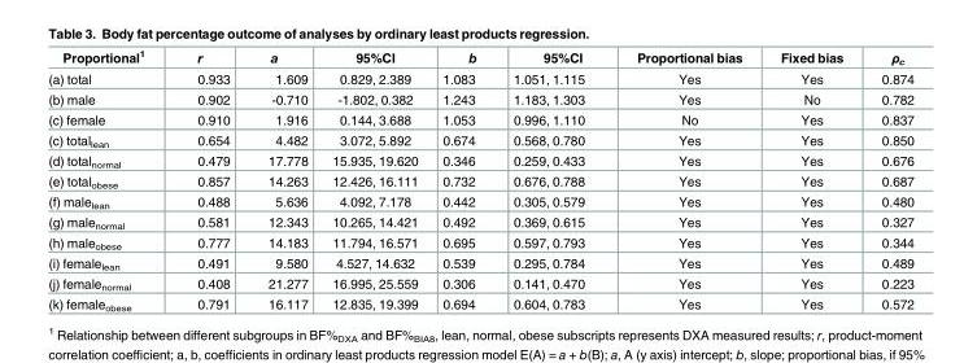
<table><thead><tr><td>Proportional<sup>1</sup></td><td>r</td><td>a</td><td>95%CI</td><td>b</td><td>95%CI</td><td>Proportional bias</td><td>Fixed bias</td><td>ρ<sub>c</sub></td></tr></thead><tbody><tr><td>(a) total</td><td>0.933</td><td>1.609</td><td>0.829, 2.389</td><td>1.083</td><td>1.051, 1.115</td><td>Yes</td><td>Yes</td><td>0.874</td></tr><tr><td>(b) male</td><td>0.902</td><td>-0.710</td><td>-1.802, 0.382</td><td>1.243</td><td>1.183, 1.303</td><td>Yes</td><td>No</td><td>0.782</td></tr><tr><td>(c) female</td><td>0.910</td><td>1.916</td><td>0.144, 3.688</td><td>1.053</td><td>0.996, 1.110</td><td>No</td><td>Yes</td><td>0.837</td></tr><tr><td>(c) total<sub>lean</sub></td><td>0.654</td><td>4.482</td><td>3.072, 5.892</td><td>0.674</td><td>0.568, 0.780</td><td>Yes</td><td>Yes</td><td>0.850</td></tr><tr><td>(d) total<sub>normal</sub></td><td>0.479</td><td>17.778</td><td>15.935, 19.620</td><td>0.346</td><td>0.259, 0.433</td><td>Yes</td><td>Yes</td><td>0.676</td></tr><tr><td>(e) total<sub>obese</sub></td><td>0.857</td><td>14.263</td><td>12.426, 16.111</td><td>0.732</td><td>0.676, 0.788</td><td>Yes</td><td>Yes</td><td>0.687</td></tr><tr><td>(f) male<sub>lean</sub></td><td>0.488</td><td>5.636</td><td>4.092, 7.178</td><td>0.442</td><td>0.305, 0.579</td><td>Yes</td><td>Yes</td><td>0.480</td></tr><tr><td>(g) male<sub>normal</sub></td><td>0.581</td><td>12.343</td><td>10.265, 14.421</td><td>0.492</td><td>0.369, 0.615</td><td>Yes</td><td>Yes</td><td>0.327</td></tr><tr><td>(h) male<sub>obese</sub></td><td>0.777</td><td>14.183</td><td>11.794, 16.571</td><td>0.695</td><td>0.597, 0.793</td><td>Yes</td><td>Yes</td><td>0.344</td></tr><tr><td>(i) female<sub>lean</sub></td><td>0.491</td><td>9.580</td><td>4.527, 14.632</td><td>0.539</td><td>0.295, 0.784</td><td>Yes</td><td>Yes</td><td>0.489</td></tr><tr><td>(j) female<sub>normal</sub></td><td>0.408</td><td>21.277</td><td>16.995, 25.559</td><td>0.306</td><td>0.141, 0.470</td><td>Yes</td><td>Yes</td><td>0.223</td></tr><tr><td>(k) female<sub>obese</sub></td><td>0.791</td><td>16.117</td><td>12.835, 19.399</td><td>0.694</td><td>0.604, 0.783</td><td>Yes</td><td>Yes</td><td>0.572</td></tr></tbody></table>